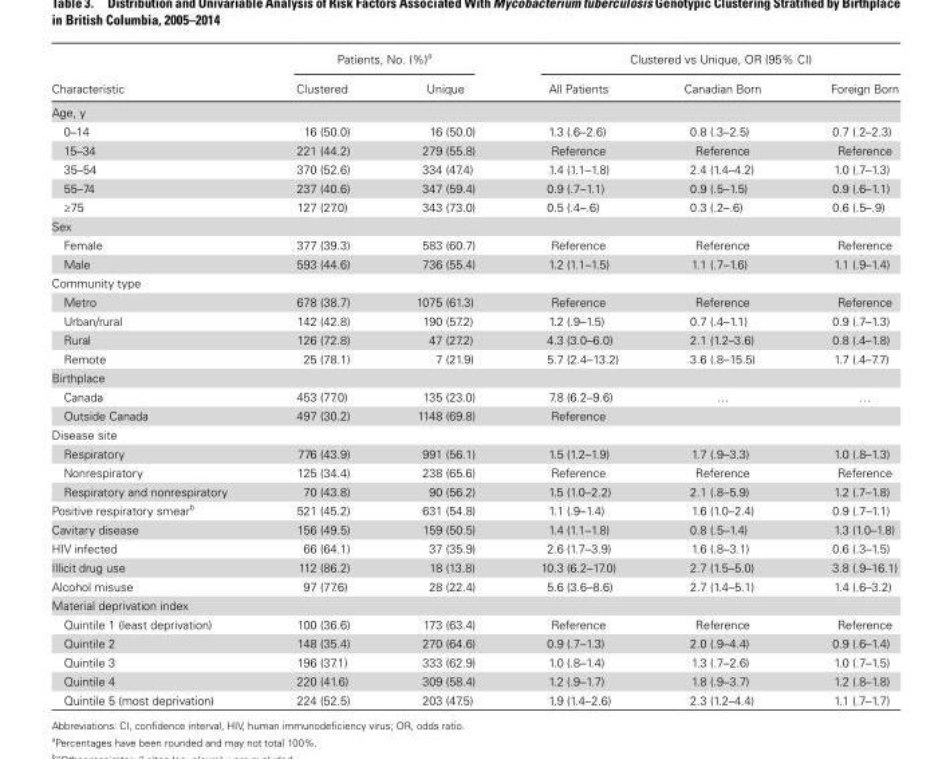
<table><thead><tr><td rowspan="2">Characteristic</td><td colspan="2">Patients, No. (%)<sup>a</sup></td><td colspan="3">Clustered vs Unique, OR (95% CI)</td></tr><tr><td>Clustered</td><td>Unique</td><td>All Patients</td><td>Canadian Born</td><td>Foreign Born</td></tr></thead><tbody><tr><td colspan="6">Age, y</td></tr><tr><td>0–14</td><td>16 (50.0)</td><td>16 (50.0)</td><td>1.3 (.6–2.6)</td><td>0.8 (.3–2.5)</td><td>0.7 (.2–2.3)</td></tr><tr><td>15–34</td><td>221 (44.2)</td><td>279 (55.8)</td><td>Reference</td><td>Reference</td><td>Reference</td></tr><tr><td>35–54</td><td>370 (52.6)</td><td>334 (47.4)</td><td>1.4 (1.1–1.8)</td><td>2.4 (1.4–4.2)</td><td>1.0 (.7–1.3)</td></tr><tr><td>55–74</td><td>237 (40.6)</td><td>347 (59.4)</td><td>0.9 (.7–1.1)</td><td>0.9 (.5–1.5)</td><td>0.9 (.6–1.1)</td></tr><tr><td>≥75</td><td>127 (27.0)</td><td>343 (73.0)</td><td>0.5 (.4–.6)</td><td>0.3 (.2–.6)</td><td>0.6 (.5–.9)</td></tr><tr><td colspan="6">Sex</td></tr><tr><td>Female</td><td>377 (39.3)</td><td>583 (60.7)</td><td>Reference</td><td>Reference</td><td>Reference</td></tr><tr><td>Male</td><td>593 (44.6)</td><td>736 (55.4)</td><td>1.2 (1.1–1.5)</td><td>1.1 (.7–1.6)</td><td>1.1 (.9–1.4)</td></tr><tr><td colspan="6">Community type</td></tr><tr><td>Metro</td><td>678 (38.7)</td><td>1075 (61.3)</td><td>Reference</td><td>Reference</td><td>Reference</td></tr><tr><td>Urban/rural</td><td>142 (42.8)</td><td>190 (57.2)</td><td>1.2 (.9–1.5)</td><td>0.7 (.4–1.1)</td><td>0.9 (.7–1.3)</td></tr><tr><td>Rural</td><td>126 (72.8)</td><td>47 (27.2)</td><td>4.3 (3.0–6.0)</td><td>2.1 (1.2–3.6)</td><td>0.8 (.4–1.8)</td></tr><tr><td>Remote</td><td>25 (78.1)</td><td>7 (21.9)</td><td>5.7 (2.4–13.2)</td><td>3.6 (.8–15.5)</td><td>1.7 (.4–7.7)</td></tr><tr><td colspan="6">Birthplace</td></tr><tr><td>Canada</td><td>453 (77.0)</td><td>135 (23.0)</td><td>7.8 (6.2–9.6)</td><td>…</td><td>…</td></tr><tr><td>Outside Canada</td><td>497 (30.2)</td><td>1148 (69.8)</td><td>Reference</td><td></td><td></td></tr><tr><td colspan="6">Disease site</td></tr><tr><td>Respiratory</td><td>776 (43.9)</td><td>991 (56.1)</td><td>1.5 (1.2–1.9)</td><td>1.7 (.9–3.3)</td><td>1.0 (.8–1.3)</td></tr><tr><td>Nonrespiratory</td><td>125 (34.4)</td><td>238 (65.6)</td><td>Reference</td><td>Reference</td><td>Reference</td></tr><tr><td>Respiratory and nonrespiratory</td><td>70 (43.8)</td><td>90 (56.2)</td><td>1.5 (1.0–2.2)</td><td>2.1 (.8–5.9)</td><td>1.2 (.7–1.8)</td></tr><tr><td>Positive respiratory smear<sup>b</sup></td><td>521 (45.2)</td><td>631 (54.8)</td><td>1.1 (.9–1.4)</td><td>1.6 (1.0–2.4)</td><td>0.9 (.7–1.1)</td></tr><tr><td>Cavitary disease</td><td>156 (49.5)</td><td>159 (50.5)</td><td>1.4 (1.1–1.8)</td><td>0.8 (.5–1.4)</td><td>1.3 (1.0–1.8)</td></tr><tr><td>HIV infected</td><td>66 (64.1)</td><td>37 (35.9)</td><td>2.6 (1.7–3.9)</td><td>1.6 (.8–3.1)</td><td>0.6 (.3–1.5)</td></tr><tr><td>Illicit drug use</td><td>112 (86.2)</td><td>18 (13.8)</td><td>10.3 (6.2–17.0)</td><td>2.7 (1.5–5.0)</td><td>3.8 (.9–16.1)</td></tr><tr><td>Alcohol misuse</td><td>97 (77.6)</td><td>28 (22.4)</td><td>5.6 (3.6–8.6)</td><td>2.7 (1.4–5.1)</td><td>1.4 (.6–3.2)</td></tr><tr><td colspan="6">Material deprivation index</td></tr><tr><td>Quintile 1 (least deprivation)</td><td>100 (36.6)</td><td>173 (63.4)</td><td>Reference</td><td>Reference</td><td>Reference</td></tr><tr><td>Quintile 2</td><td>148 (35.4)</td><td>270 (64.6)</td><td>0.9 (.7–1.3)</td><td>2.0 (.9–4.4)</td><td>0.9 (.6–1.4)</td></tr><tr><td>Quintile 3</td><td>196 (37.1)</td><td>333 (62.9)</td><td>1.0 (.8–1.4)</td><td>1.3 (.7–2.6)</td><td>1.0 (.7–1.5)</td></tr><tr><td>Quintile 4</td><td>220 (41.6)</td><td>309 (58.4)</td><td>1.2 (.9–1.7)</td><td>1.8 (.9–3.7)</td><td>1.2 (.8–1.8)</td></tr><tr><td>Quintile 5 (most deprivation)</td><td>224 (52.5)</td><td>203 (47.5)</td><td>1.9 (1.4–2.6)</td><td>2.3 (1.2–4.4)</td><td>1.1 (.7–1.7)</td></tr></tbody></table>